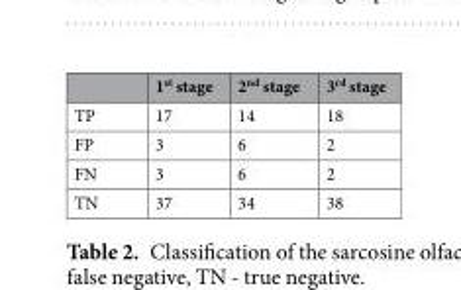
<table><thead><tr><td></td><td>1<sup>st</sup> stage</td><td>2<sup>nd</sup> stage</td><td>3<sup>rd</sup> stage</td></tr></thead><tbody><tr><td>TP</td><td>17</td><td>14</td><td>18</td></tr><tr><td>FP</td><td>3</td><td>6</td><td>2</td></tr><tr><td>FN</td><td>3</td><td>6</td><td>2</td></tr><tr><td>TN</td><td>37</td><td>34</td><td>38</td></tr></tbody></table>